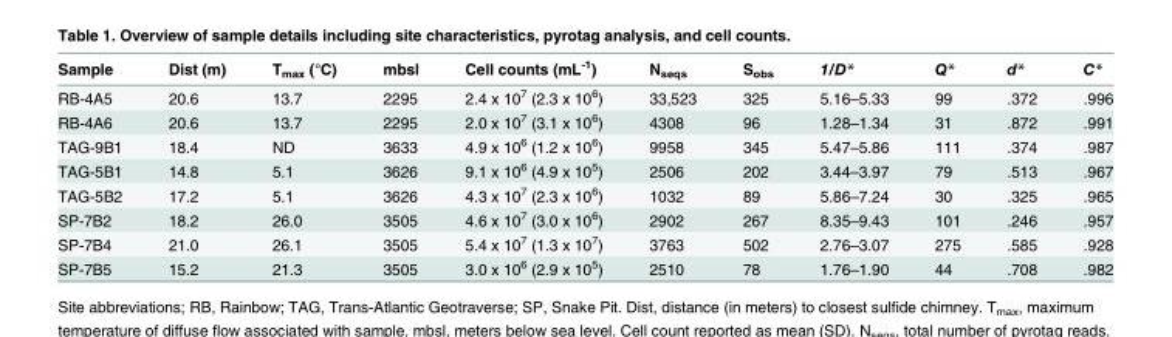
<table><thead><tr><td>Sample</td><td>Dist (m)</td><td>T<sub>max</sub> (°C)</td><td>mbsl</td><td>Cell counts (mL<sup>-1</sup>)</td><td>N<sub>seqs</sub></td><td>S<sub>obs</sub></td><td>1/D*</td><td>Q*</td><td>d*</td><td>C*</td></tr></thead><tbody><tr><td>RB-4A5</td><td>20.6</td><td>13.7</td><td>2295</td><td>2.4 x 10<sup>7</sup> (2.3 x 10<sup>6</sup>)</td><td>33,523</td><td>325</td><td>5.16–5.33</td><td>99</td><td>.372</td><td>.996</td></tr><tr><td>RB-4A6</td><td>20.6</td><td>13.7</td><td>2295</td><td>2.0 x 10<sup>7</sup> (3.1 x 10<sup>6</sup>)</td><td>4308</td><td>96</td><td>1.28–1.34</td><td>31</td><td>.872</td><td>.991</td></tr><tr><td>TAG-9B1</td><td>18.4</td><td>ND</td><td>3633</td><td>4.9 x 10<sup>6</sup> (1.2 x 10<sup>6</sup>)</td><td>9958</td><td>345</td><td>5.47–5.86</td><td>111</td><td>.374</td><td>.987</td></tr><tr><td>TAG-5B1</td><td>14.8</td><td>5.1</td><td>3626</td><td>9.1 x 10<sup>6</sup> (4.9 x 10<sup>5</sup>)</td><td>2506</td><td>202</td><td>3.44–3.97</td><td>79</td><td>.513</td><td>.967</td></tr><tr><td>TAG-5B2</td><td>17.2</td><td>5.1</td><td>3626</td><td>4.3 x 10<sup>7</sup> (2.3 x 10<sup>6</sup>)</td><td>1032</td><td>89</td><td>5.86–7.24</td><td>30</td><td>.325</td><td>.965</td></tr><tr><td>SP-7B2</td><td>18.2</td><td>26.0</td><td>3505</td><td>4.6 x 10<sup>7</sup> (3.0 x 10<sup>6</sup>)</td><td>2902</td><td>267</td><td>8.35–9.43</td><td>101</td><td>.246</td><td>.957</td></tr><tr><td>SP-7B4</td><td>21.0</td><td>26.1</td><td>3505</td><td>5.4 x 10<sup>7</sup> (1.3 x 10<sup>7</sup>)</td><td>3763</td><td>502</td><td>2.76–3.07</td><td>275</td><td>.585</td><td>.928</td></tr><tr><td>SP-7B5</td><td>15.2</td><td>21.3</td><td>3505</td><td>3.0 x 10<sup>6</sup> (2.9 x 10<sup>5</sup>)</td><td>2510</td><td>78</td><td>1.76–1.90</td><td>44</td><td>.708</td><td>.982</td></tr></tbody></table>